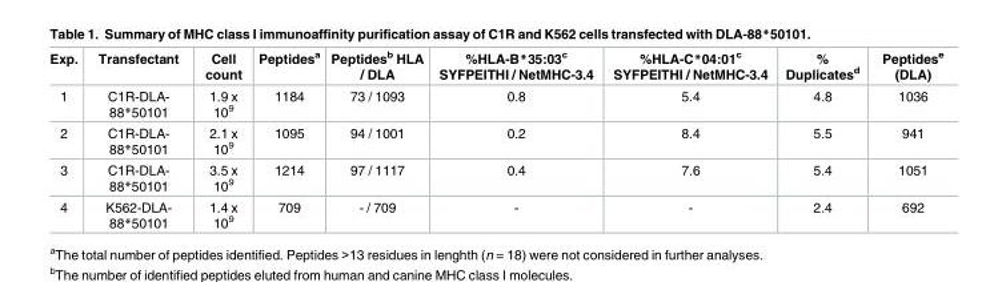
<table><thead><tr><td>Exp.</td><td>Transfectant</td><td>Cell count</td><td>Peptides<sup>a</sup></td><td>Peptides<sup>b</sup> HLA / DLA</td><td>%HLA-B*35:03<sup>c</sup> SYFPEITHI / NetMHC-3.4</td><td>%HLA-C*04:01<sup>c</sup> SYFPEITHI / NetMHC-3.4</td><td>% Duplicates<sup>d</sup></td><td>Peptides<sup>e</sup> (DLA)</td></tr></thead><tbody><tr><td>1</td><td>C1R-DLA- 88*50101</td><td>1.9 x 10<sup>9</sup></td><td>1184</td><td>73 / 1093</td><td>0.8</td><td>5.4</td><td>4.8</td><td>1036</td></tr><tr><td>2</td><td>C1R-DLA- 88*50101</td><td>2.1 x 10<sup>9</sup></td><td>1095</td><td>94 / 1001</td><td>0.2</td><td>8.4</td><td>5.5</td><td>941</td></tr><tr><td>3</td><td>C1R-DLA- 88*50101</td><td>3.5 x 10<sup>9</sup></td><td>1214</td><td>97 / 1117</td><td>0.4</td><td>7.6</td><td>5.4</td><td>1051</td></tr><tr><td>4</td><td>K562-DLA- 88*50101</td><td>1.4 x 10<sup>9</sup></td><td>709</td><td>- / 709</td><td>-</td><td>-</td><td>2.4</td><td>692</td></tr></tbody></table>